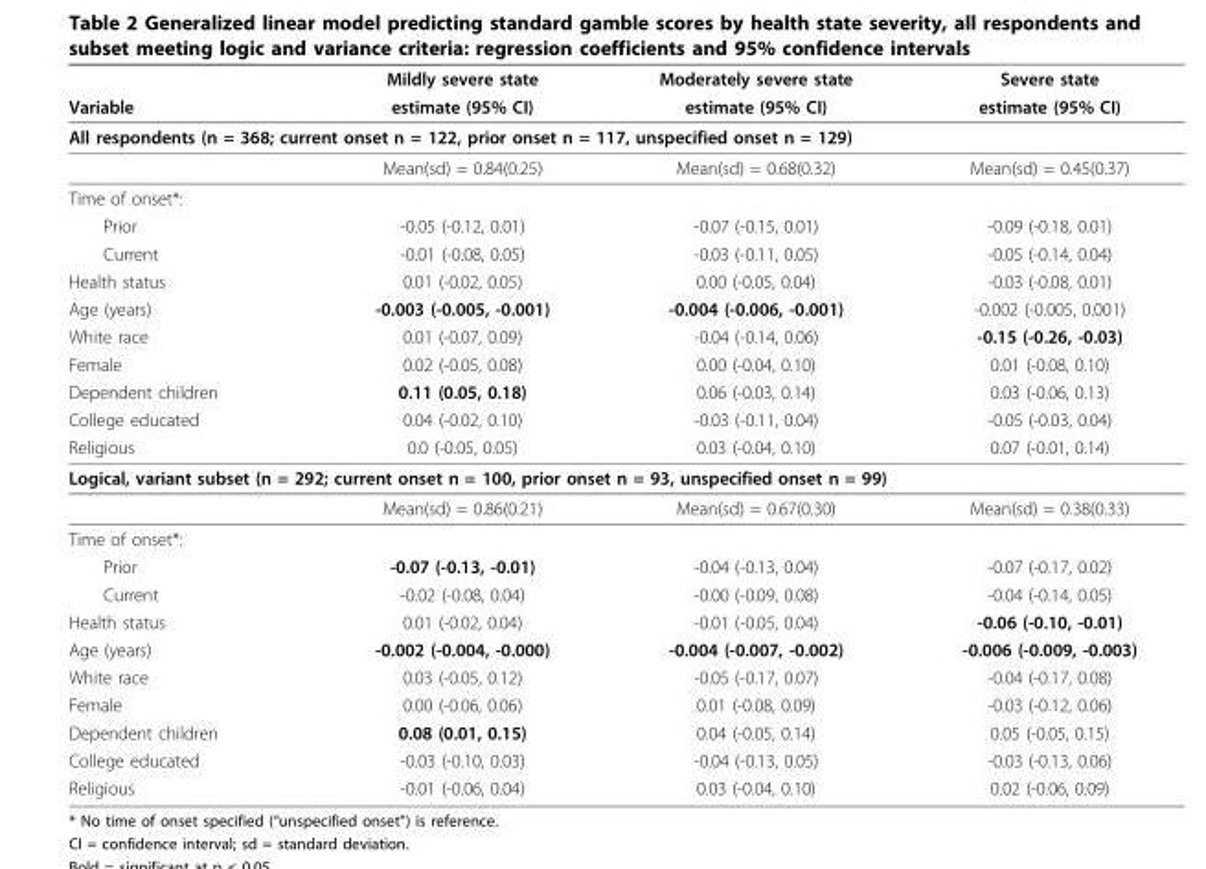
<table><thead><tr><td rowspan="2">Variable</td><td rowspan="2">Mildly severe state estimate (95% CI)</td><td rowspan="2">Moderately severe state estimate (95% CI)</td><td rowspan="2">Severe state estimate (95% CI)</td></tr><tr></tr></thead><tbody><tr><td colspan="4">All respondents (n = 368; current onset n = 122, prior onset n = 117, unspecified onset n = 129)</td></tr><tr><td></td><td>Mean(sd) = 0.84(0.25)</td><td>Mean(sd) = 0.68(0.32)</td><td>Mean(sd) = 0.45(0.37)</td></tr><tr><td colspan="4">Time of onset*:</td></tr><tr><td>Prior</td><td>-0.05 (-0.12, 0.01)</td><td>-0.07 (-0.15, 0.01)</td><td>-0.09 (-0.18, 0.01)</td></tr><tr><td>Current</td><td>-0.01 (-0.08, 0.05)</td><td>-0.03 (-0.11, 0.05)</td><td>-0.05 (-0.14, 0.04)</td></tr><tr><td>Health status</td><td>0.01 (-0.02, 0.05)</td><td>0.00 (-0.05, 0.04)</td><td>-0.03 (-0.08, 0.01)</td></tr><tr><td>Age (years)</td><td>-0.003 (-0.005, -0.001)</td><td>-0.004 (-0.006, -0.001)</td><td>-0.002 (-0.005, 0.001)</td></tr><tr><td>White race</td><td>0.01 (-0.07, 0.09)</td><td>-0.04 (-0.14, 0.06)</td><td>-0.15 (-0.26, -0.03)</td></tr><tr><td>Female</td><td>0.02 (-0.05, 0.08)</td><td>0.00 (-0.04, 0.10)</td><td>0.01 (-0.08, 0.10)</td></tr><tr><td>Dependent children</td><td>0.11 (0.05, 0.18)</td><td>0.06 (-0.03, 0.14)</td><td>0.03 (-0.06, 0.13)</td></tr><tr><td>College educated</td><td>0.04 (-0.02, 0.10)</td><td>-0.03 (-0.11, 0.04)</td><td>-0.05 (-0.03, 0.04)</td></tr><tr><td>Religious</td><td>0.0 (-0.05, 0.05)</td><td>0.03 (-0.04, 0.10)</td><td>0.07 (-0.01, 0.14)</td></tr><tr><td colspan="4">Logical, variant subset (n = 292; current onset n = 100, prior onset n = 93, unspecified onset n = 99)</td></tr><tr><td></td><td>Mean(sd) = 0.86(0.21)</td><td>Mean(sd) = 0.67(0.30)</td><td>Mean(sd) = 0.38(0.33)</td></tr><tr><td colspan="4">Time of onset*:</td></tr><tr><td>Prior</td><td>-0.07 (-0.13, -0.01)</td><td>-0.04 (-0.13, 0.04)</td><td>-0.07 (-0.17, 0.02)</td></tr><tr><td>Current</td><td>-0.02 (-0.08, 0.04)</td><td>-0.00 (-0.09, 0.08)</td><td>-0.04 (-0.14, 0.05)</td></tr><tr><td>Health status</td><td>0.01 (-0.02, 0.04)</td><td>-0.01 (-0.05, 0.04)</td><td>-0.06 (-0.10, -0.01)</td></tr><tr><td>Age (years)</td><td>-0.002 (-0.004, -0.000)</td><td>-0.004 (-0.007, -0.002)</td><td>-0.006 (-0.009, -0.003)</td></tr><tr><td>White race</td><td>0.03 (-0.05, 0.12)</td><td>-0.05 (-0.17, 0.07)</td><td>-0.04 (-0.17, 0.08)</td></tr><tr><td>Female</td><td>0.00 (-0.06, 0.06)</td><td>0.01 (-0.08, 0.09)</td><td>-0.03 (-0.12, 0.06)</td></tr><tr><td>Dependent children</td><td>0.08 (0.01, 0.15)</td><td>0.04 (-0.05, 0.14)</td><td>0.05 (-0.05, 0.15)</td></tr><tr><td>College educated</td><td>-0.03 (-0.10, 0.03)</td><td>-0.04 (-0.13, 0.05)</td><td>-0.03 (-0.13, 0.06)</td></tr><tr><td>Religious</td><td>-0.01 (-0.06, 0.04)</td><td>0.03 (-0.04, 0.10)</td><td>0.02 (-0.06, 0.09)</td></tr></tbody></table>